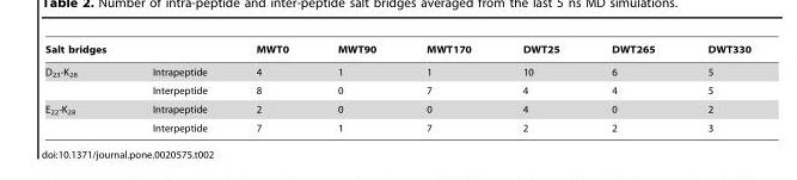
<table><thead><tr><td colspan="2">Salt bridges</td><td rowspan="2">MWT0 4</td><td rowspan="2">MWT90 1</td><td rowspan="2">MWT170 1</td><td rowspan="2">DWT25 10</td><td rowspan="2">DWT265 6</td><td rowspan="2">DWT330 5</td></tr><tr><td>D<sub>23</sub>-K<sub>28</sub></td><td>Intrapeptide</td></tr></thead><tbody><tr><td></td><td>Interpeptide</td><td>8</td><td>0</td><td>7</td><td>4</td><td>4</td><td>5</td></tr><tr><td rowspan="2">E<sub>22</sub>-K<sub>28</sub></td><td>Intrapeptide</td><td>2</td><td>0</td><td>0</td><td>4</td><td>0</td><td>2</td></tr><tr><td>Interpeptide</td><td>7</td><td>1</td><td>7</td><td>2</td><td>2</td><td>3</td></tr></tbody></table>